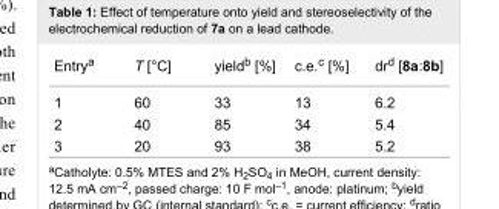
<table><tbody><tr><td>Entry<sup>a</sup></td><td>T [°C]</td><td>yield<sup>b</sup> [%]</td><td>c.e.<sup>c</sup> [%]</td><td>dr<sup>d</sup> [8a:8b]</td></tr><tr><td>1</td><td>60</td><td>33</td><td>13</td><td>6.2</td></tr><tr><td>2</td><td>40</td><td>85</td><td>34</td><td>5.4</td></tr><tr><td>3</td><td>20</td><td>93</td><td>38</td><td>5.2</td></tr></tbody></table>